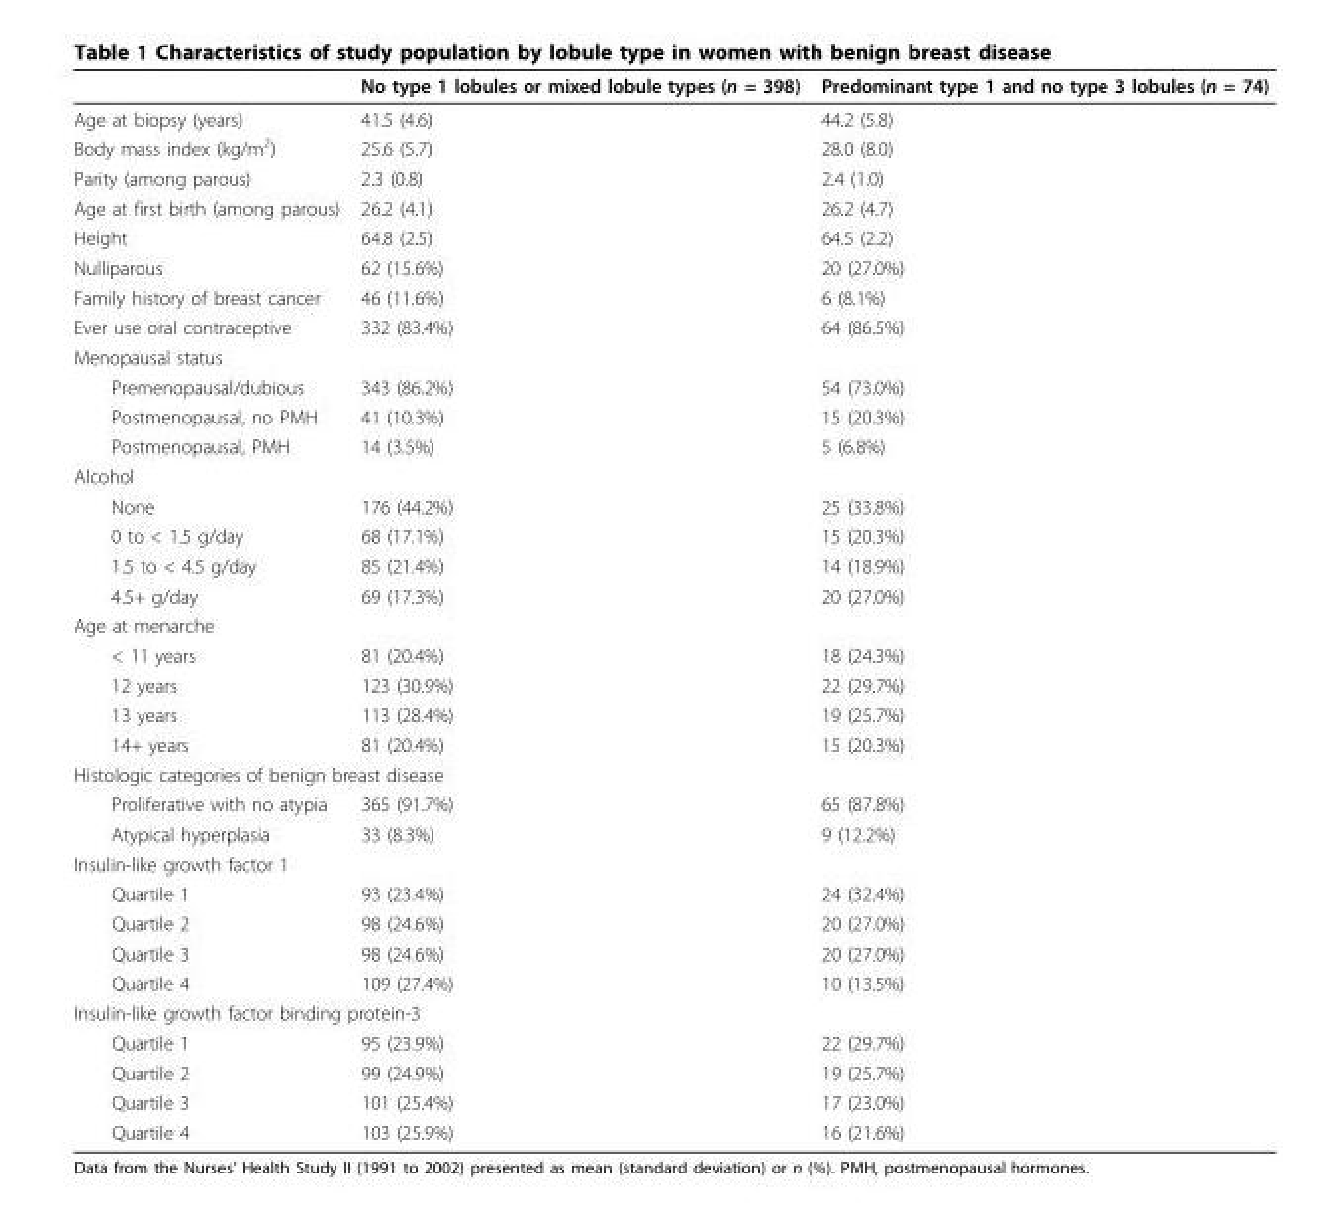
<table><thead><tr><td></td><td>No type 1 lobules or mixed lobule types (n = 398)</td><td>Predominant type 1 and no type 3 lobules (n = 74)</td></tr></thead><tbody><tr><td>Age at biopsy (years)</td><td>41.5 (4.6)</td><td>44.2 (5.8)</td></tr><tr><td>Body mass index (kg/m<sup>2</sup>)</td><td>25.6 (5.7)</td><td>28.0 (8.0)</td></tr><tr><td>Parity (among parous)</td><td>2.3 (0.8)</td><td>2.4 (1.0)</td></tr><tr><td>Age at first birth (among parous)</td><td>26.2 (4.1)</td><td>26.2 (4.7)</td></tr><tr><td>Height</td><td>64.8 (2.5)</td><td>64.5 (2.2)</td></tr><tr><td>Nulliparous</td><td>62 (15.6%)</td><td>20 (27.0%)</td></tr><tr><td>Family history of breast cancer</td><td>46 (11.6%)</td><td>6 (8.1%)</td></tr><tr><td>Ever use oral contraceptive</td><td>332 (83.4%)</td><td>64 (86.5%)</td></tr><tr><td colspan="3">Menopausal status</td></tr><tr><td>Premenopausal/dubious</td><td>343 (86.2%)</td><td>54 (73.0%)</td></tr><tr><td>Postmenopausal, no PMH</td><td>41 (10.3%)</td><td>15 (20.3%)</td></tr><tr><td>Postmenopausal, PMH</td><td>14 (3.5%)</td><td>5 (6.8%)</td></tr><tr><td colspan="3">Alcohol</td></tr><tr><td>None</td><td>176 (44.2%)</td><td>25 (33.8%)</td></tr><tr><td>0 to &lt; 1.5 g/day</td><td>68 (17.1%)</td><td>15 (20.3%)</td></tr><tr><td>1.5 to &lt; 4.5 g/day</td><td>85 (21.4%)</td><td>14 (18.9%)</td></tr><tr><td>4.5+ g/day</td><td>69 (17.3%)</td><td>20 (27.0%)</td></tr><tr><td colspan="3">Age at menarche</td></tr><tr><td>&lt; 11 years</td><td>81 (20.4%)</td><td>18 (24.3%)</td></tr><tr><td>12 years</td><td>123 (30.9%)</td><td>22 (29.7%)</td></tr><tr><td>13 years</td><td>113 (28.4%)</td><td>19 (25.7%)</td></tr><tr><td>14+ years</td><td>81 (20.4%)</td><td>15 (20.3%)</td></tr><tr><td colspan="3">Histologic categories of benign breast disease</td></tr><tr><td>Proliferative with no atypia</td><td>365 (91.7%)</td><td>65 (87.8%)</td></tr><tr><td>Atypical hyperplasia</td><td>33 (8.3%)</td><td>9 (12.2%)</td></tr><tr><td colspan="3">Insulin-like growth factor 1</td></tr><tr><td>Quartile 1</td><td>93 (23.4%)</td><td>24 (32.4%)</td></tr><tr><td>Quartile 2</td><td>98 (24.6%)</td><td>20 (27.0%)</td></tr><tr><td>Quartile 3</td><td>98 (24.6%)</td><td>20 (27.0%)</td></tr><tr><td>Quartile 4</td><td>109 (27.4%)</td><td>10 (13.5%)</td></tr><tr><td colspan="3">Insulin-like growth factor binding protein-3</td></tr><tr><td>Quartile 1</td><td>95 (23.9%)</td><td>22 (29.7%)</td></tr><tr><td>Quartile 2</td><td>99 (24.9%)</td><td>19 (25.7%)</td></tr><tr><td>Quartile 3</td><td>101 (25.4%)</td><td>17 (23.0%)</td></tr><tr><td>Quartile 4</td><td>103 (25.9%)</td><td>16 (21.6%)</td></tr></tbody></table>